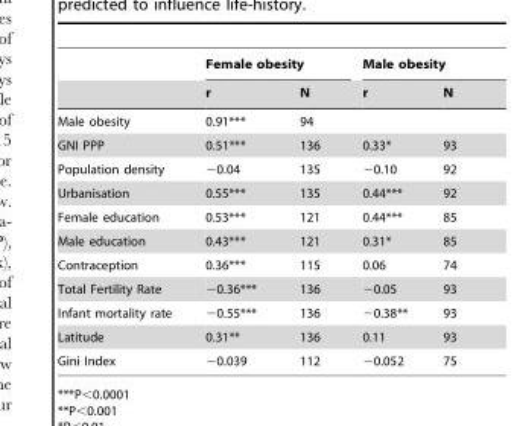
<table><thead><tr><td rowspan="2"></td><td colspan="2">Female obesity</td><td colspan="2">Male obesity</td></tr><tr><td>r</td><td>N</td><td>r</td><td>N</td></tr></thead><tbody><tr><td>Male obesity</td><td>0.91***</td><td>94</td><td></td><td></td></tr><tr><td>GNI PPP</td><td>0.51***</td><td>136</td><td>0.33*</td><td>93</td></tr><tr><td>Population density</td><td>−0.04</td><td>135</td><td>−0.10</td><td>92</td></tr><tr><td>Urbanisation</td><td>0.55***</td><td>135</td><td>0.44***</td><td>92</td></tr><tr><td>Female education</td><td>0.53***</td><td>121</td><td>0.44***</td><td>85</td></tr><tr><td>Male education</td><td>0.43***</td><td>121</td><td>0.31*</td><td>85</td></tr><tr><td>Contraception</td><td>0.36***</td><td>115</td><td>0.06</td><td>74</td></tr><tr><td>Total Fertility Rate</td><td>−0.36***</td><td>136</td><td>−0.05</td><td>93</td></tr><tr><td>Infant mortality rate</td><td>−0.55***</td><td>136</td><td>−0.38**</td><td>93</td></tr><tr><td>Latitude</td><td>0.31**</td><td>136</td><td>0.11</td><td>93</td></tr><tr><td>Gini Index</td><td>−0.039</td><td>112</td><td>−0.052</td><td>75</td></tr></tbody></table>